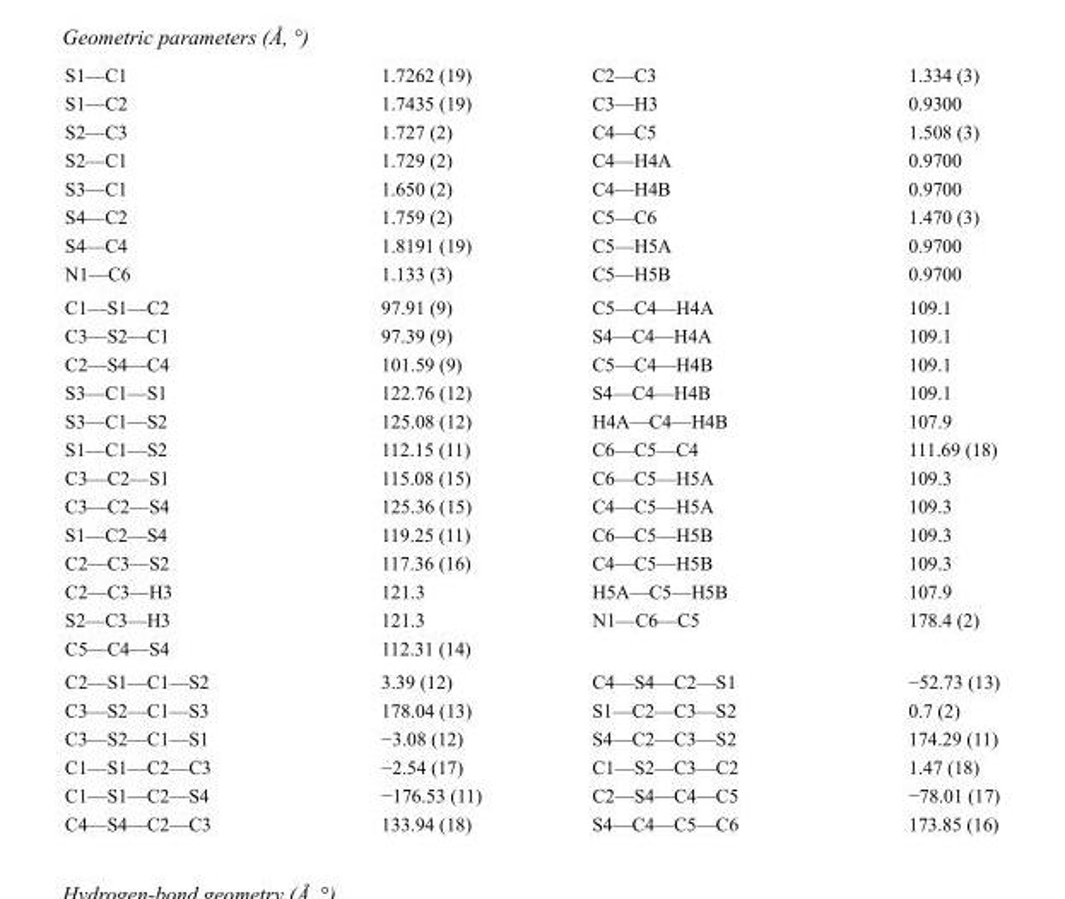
<table><tbody><tr><td>S1—C1</td><td>1.7262 (19)</td><td>C2—C3</td><td>1.334 (3)</td></tr><tr><td>S1—C2</td><td>1.7435 (19)</td><td>C3—H3</td><td>0.9300</td></tr><tr><td>S2—C3</td><td>1.727 (2)</td><td>C4—C5</td><td>1.508 (3)</td></tr><tr><td>S2—C1</td><td>1.729 (2)</td><td>C4—H4A</td><td>0.9700</td></tr><tr><td>S3—C1</td><td>1.650 (2)</td><td>C4—H4B</td><td>0.9700</td></tr><tr><td>S4—C2</td><td>1.759 (2)</td><td>C5—C6</td><td>1.470 (3)</td></tr><tr><td>S4—C4</td><td>1.8191 (19)</td><td>C5—H5A</td><td>0.9700</td></tr><tr><td>N1—C6</td><td>1.133 (3)</td><td>C5—H5B</td><td>0.9700</td></tr><tr><td>C1—S1—C2</td><td>97.91 (9)</td><td>C5—C4—H4A</td><td>109.1</td></tr><tr><td>C3—S2—C1</td><td>97.39 (9)</td><td>S4—C4—H4A</td><td>109.1</td></tr><tr><td>C2—S4—C4</td><td>101.59 (9)</td><td>C5—C4—H4B</td><td>109.1</td></tr><tr><td>S3—C1—S1</td><td>122.76 (12)</td><td>S4—C4—H4B</td><td>109.1</td></tr><tr><td>S3—C1—S2</td><td>125.08 (12)</td><td>H4A—C4—H4B</td><td>107.9</td></tr><tr><td>S1—C1—S2</td><td>112.15 (11)</td><td>C6—C5—C4</td><td>111.69 (18)</td></tr><tr><td>C3—C2—S1</td><td>115.08 (15)</td><td>C6—C5—H5A</td><td>109.3</td></tr><tr><td>C3—C2—S4</td><td>125.36 (15)</td><td>C4—C5—H5A</td><td>109.3</td></tr><tr><td>S1—C2—S4</td><td>119.25 (11)</td><td>C6—C5—H5B</td><td>109.3</td></tr><tr><td>C2—C3—S2</td><td>117.36 (16)</td><td>C4—C5—H5B</td><td>109.3</td></tr><tr><td>C2—C3—H3</td><td>121.3</td><td>H5A—C5—H5B</td><td>107.9</td></tr><tr><td>S2—C3—H3</td><td>121.3</td><td>N1—C6—C5</td><td>178.4 (2)</td></tr><tr><td>C5—C4—S4</td><td>112.31 (14)</td><td></td><td></td></tr><tr><td>C2—S1—C1—S2</td><td>3.39 (12)</td><td>C4—S4—C2—S1</td><td>−52.73 (13)</td></tr><tr><td>C3—S2—C1—S3</td><td>178.04 (13)</td><td>S1—C2—C3—S2</td><td>0.7 (2)</td></tr><tr><td>C3—S2—C1—S1</td><td>−3.08 (12)</td><td>S4—C2—C3—S2</td><td>174.29 (11)</td></tr><tr><td>C1—S1—C2—C3</td><td>−2.54 (17)</td><td>C1—S2—C3—C2</td><td>1.47 (18)</td></tr><tr><td>C1—S1—C2—S4</td><td>−176.53 (11)</td><td>C2—S4—C4—C5</td><td>−78.01 (17)</td></tr><tr><td>C4—S4—C2—C3</td><td>133.94 (18)</td><td>S4—C4—C5—C6</td><td>173.85 (16)</td></tr></tbody></table>